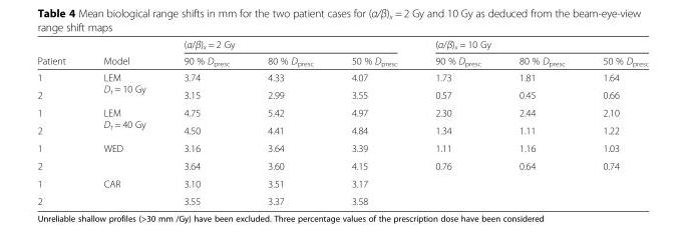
<table><thead><tr><td rowspan="2">Patient</td><td rowspan="2">Model</td><td colspan="3">(α/β)<sub>x</sub> = 2 Gy</td><td colspan="3">(α/β)<sub>x</sub> = 10 Gy</td></tr><tr><td>90 % D<sub>presc</sub></td><td>80 % D<sub>presc</sub></td><td>50 % D<sub>presc</sub></td><td>90 % D<sub>presc</sub></td><td>80 % D<sub>presc</sub></td><td>50 % D<sub>presc</sub></td></tr></thead><tbody><tr><td>1</td><td rowspan="2">LEM D<sub>t</sub> = 10 Gy</td><td>3.74</td><td>4.33</td><td>4.07</td><td>1.73</td><td>1.81</td><td>1.64</td></tr><tr><td>2</td><td>3.15</td><td>2.99</td><td>3.55</td><td>0.57</td><td>0.45</td><td>0.66</td></tr><tr><td>1</td><td rowspan="2">LEM D<sub>t</sub> = 40 Gy</td><td>4.75</td><td>5.42</td><td>4.97</td><td>2.30</td><td>2.44</td><td>2.10</td></tr><tr><td>2</td><td>4.50</td><td>4.41</td><td>4.84</td><td>1.34</td><td>1.11</td><td>1.22</td></tr><tr><td>1</td><td rowspan="2">WED</td><td>3.16</td><td>3.64</td><td>3.39</td><td>1.11</td><td>1.16</td><td>1.03</td></tr><tr><td>2</td><td>3.64</td><td>3.60</td><td>4.15</td><td>0.76</td><td>0.64</td><td>0.74</td></tr><tr><td>1</td><td rowspan="2">CAR</td><td>3.10</td><td>3.51</td><td>3.17</td><td rowspan="2"></td><td rowspan="2"></td><td rowspan="2"></td></tr><tr><td>2</td><td>3.55</td><td>3.37</td><td>3.58</td></tr></tbody></table>